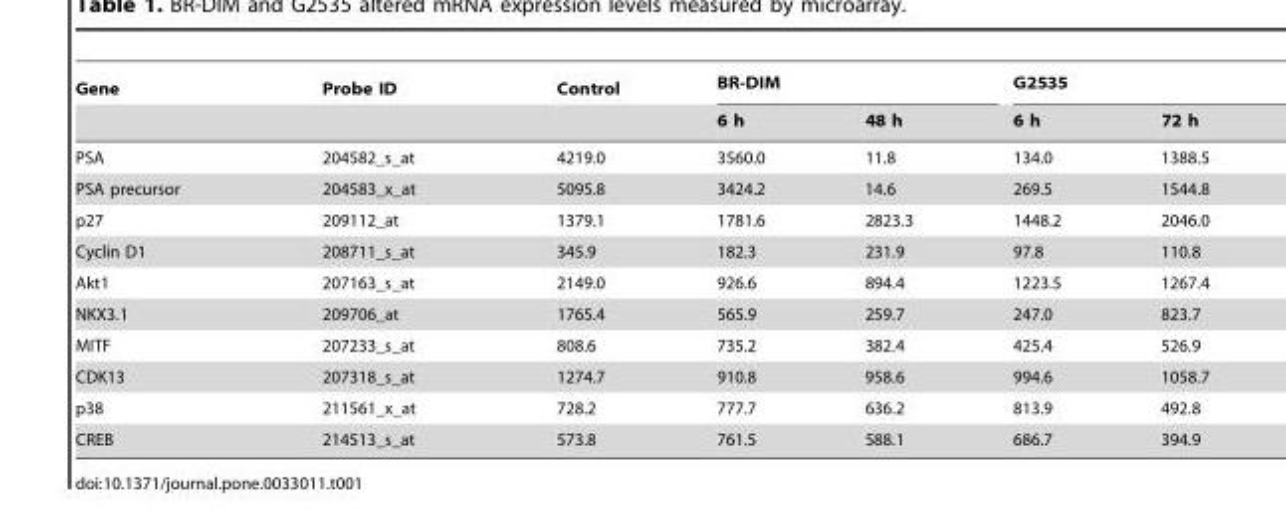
<table><thead><tr><td rowspan="2">Gene</td><td rowspan="2">Probe ID</td><td rowspan="2">Control</td><td colspan="2">BR-DIM</td><td colspan="2">G2535</td></tr><tr><td>6 h</td><td>48 h</td><td>6 h</td><td>72 h</td></tr></thead><tbody><tr><td>PSA</td><td>204582_s_at</td><td>4219.0</td><td>3560.0</td><td>11.8</td><td>134.0</td><td>1388.5</td></tr><tr><td>PSA precursor</td><td>204583_x_at</td><td>5095.8</td><td>3424.2</td><td>14.6</td><td>269.5</td><td>1544.8</td></tr><tr><td>p27</td><td>209112_at</td><td>1379.1</td><td>1781.6</td><td>2823.3</td><td>1448.2</td><td>2046.0</td></tr><tr><td>Cyclin D1</td><td>208711_s_at</td><td>345.9</td><td>182.3</td><td>231.9</td><td>97.8</td><td>110.8</td></tr><tr><td>Akt1</td><td>207163_s_at</td><td>2149.0</td><td>926.6</td><td>894.4</td><td>1223.5</td><td>1267.4</td></tr><tr><td>NKX3.1</td><td>209706_at</td><td>1765.4</td><td>565.9</td><td>259.7</td><td>247.0</td><td>823.7</td></tr><tr><td>MITF</td><td>207233_s_at</td><td>808.6</td><td>735.2</td><td>382.4</td><td>425.4</td><td>526.9</td></tr><tr><td>CDK13</td><td>207318_s_at</td><td>1274.7</td><td>910.8</td><td>958.6</td><td>994.6</td><td>1058.7</td></tr><tr><td>p38</td><td>211561_x_at</td><td>728.2</td><td>777.7</td><td>636.2</td><td>813.9</td><td>492.8</td></tr><tr><td>CREB</td><td>214513_s_at</td><td>573.8</td><td>761.5</td><td>588.1</td><td>686.7</td><td>394.9</td></tr></tbody></table>